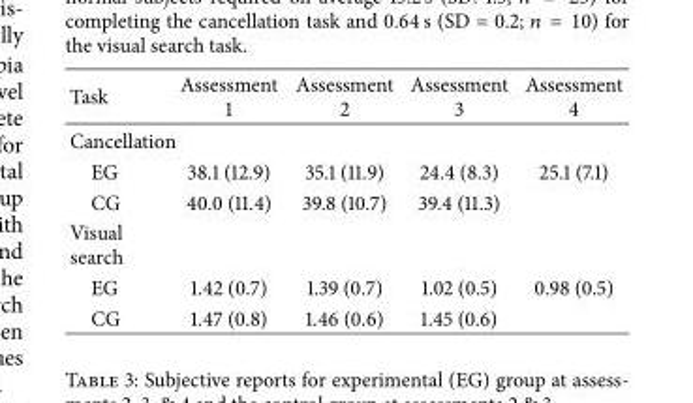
<table><thead><tr><td>Task</td><td>Assessment 1</td><td>Assessment 2</td><td>Assessment 3</td><td>Assessment 4</td></tr></thead><tbody><tr><td colspan="5">Cancellation</td></tr><tr><td>EG</td><td>38.1 (12.9)</td><td>35.1 (11.9)</td><td>24.4 (8.3)</td><td>25.1 (7.1)</td></tr><tr><td>CG</td><td>40.0 (11.4)</td><td>39.8 (10.7)</td><td>39.4 (11.3)</td><td></td></tr><tr><td colspan="5">Visual search</td></tr><tr><td>EG</td><td>1.42 (0.7)</td><td>1.39 (0.7)</td><td>1.02 (0.5)</td><td>0.98 (0.5)</td></tr><tr><td>CG</td><td>1.47 (0.8)</td><td>1.46 (0.6)</td><td>1.45 (0.6)</td><td></td></tr></tbody></table>